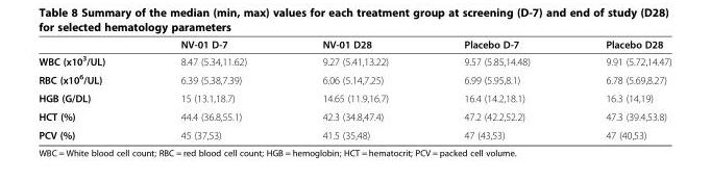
<table><thead><tr><td></td><td>NV-01 D-7</td><td>NV-01 D28</td><td>Placebo D-7</td><td>Placebo D28</td></tr></thead><tbody><tr><td>WBC (x10<sup>3</sup>/UL)</td><td>8.47 (5.34,11.62)</td><td>9.27 (5.41,13.22)</td><td>9.57 (5.85,14.48)</td><td>9.91 (5.72,14.47)</td></tr><tr><td>RBC (x10<sup>6</sup>/UL)</td><td>6.39 (5.38,7.39)</td><td>6.06 (5.14,7.25)</td><td>6.99 (5.95,8.1)</td><td>6.78 (5.69,8.27)</td></tr><tr><td>HGB (G/DL)</td><td>15 (13.1,18.7)</td><td>14.65 (11.9,16.7)</td><td>16.4 (14.2,18.1)</td><td>16.3 (14,19)</td></tr><tr><td>HCT (%)</td><td>44.4 (36.8,55.1)</td><td>42.3 (34.8,47.4)</td><td>47.2 (42.2,52.2)</td><td>47.3 (39.4,53.8)</td></tr><tr><td>PCV (%)</td><td>45 (37,53)</td><td>41.5 (35,48)</td><td>47 (43,53)</td><td>47 (40,53)</td></tr></tbody></table>